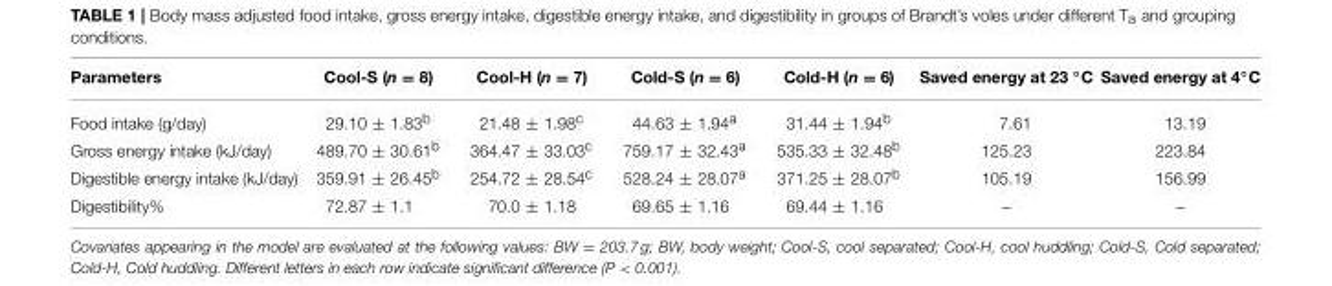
<table><thead><tr><td>Parameters</td><td>Cool-S (n = 8)</td><td>Cool-H (n = 7)</td><td>Cold-S (n = 6)</td><td>Cold-H (n = 6)</td><td>Saved energy at 23 ◦C</td><td>Saved energy at 4◦C</td></tr></thead><tbody><tr><td>Food intake (g/day)</td><td>29.10 ± 1.83<sup>b</sup></td><td>21.48 ± 1.98<sup>c</sup></td><td>44.63 ± 1.94<sup>a</sup></td><td>31.44 ± 1.94<sup>b</sup></td><td>7.61</td><td>13.19</td></tr><tr><td>Gross energy intake (kJ/day)</td><td>489.70 ± 30.61<sup>b</sup></td><td>364.47 ± 33.03<sup>c</sup></td><td>759.17 ± 32.43<sup>a</sup></td><td>535.33 ± 32.48<sup>b</sup></td><td>125.23</td><td>223.84</td></tr><tr><td>Digestible energy intake (kJ/day)</td><td>359.91 ± 26.45<sup>b</sup></td><td>254.72 ± 28.54<sup>c</sup></td><td>528.24 ± 28.07<sup>a</sup></td><td>371.25 ± 28.07<sup>b</sup></td><td>105.19</td><td>156.99</td></tr><tr><td>Digestibility%</td><td>72.87 ± 1.1</td><td>70.0 ± 1.18</td><td>69.65 ± 1.16</td><td>69.44 ± 1.16</td><td>–</td><td>–</td></tr></tbody></table>